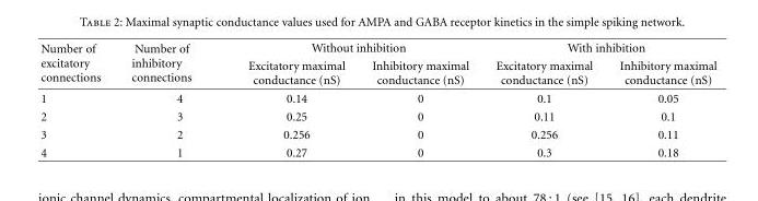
<table><thead><tr><td rowspan="2">Number of excitatory connections</td><td rowspan="2">Number of inhibitory connections</td><td colspan="2">Without inhibition</td><td colspan="2">With inhibition</td></tr><tr><td>Excitatory maximal conductance (nS)</td><td>Inhibitory maximal conductance (nS)</td><td>Excitatory maximal conductance (nS)</td><td>Inhibitory maximal conductance (nS)</td></tr></thead><tbody><tr><td>1</td><td>4</td><td>0.14</td><td>0</td><td>0.1</td><td>0.05</td></tr><tr><td>2</td><td>3</td><td>0.25</td><td>0</td><td>0.11</td><td>0.1</td></tr><tr><td>3</td><td>2</td><td>0.256</td><td>0</td><td>0.256</td><td>0.11</td></tr><tr><td>4</td><td>1</td><td>0.27</td><td>0</td><td>0.3</td><td>0.18</td></tr></tbody></table>